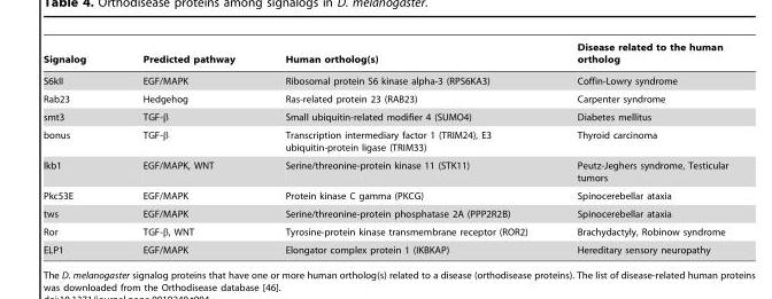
<table><thead><tr><td>Signalog</td><td>Predicted pathway</td><td>Human ortholog(s)</td><td>Disease related to the human ortholog</td></tr></thead><tbody><tr><td>S6kII</td><td>EGF/MAPK</td><td>Ribosomal protein S6 kinase alpha-3 (RPS6KA3)</td><td>Coffin-Lowry syndrome</td></tr><tr><td>Rab23</td><td>Hedgehog</td><td>Ras-related protein 23 (RAB23)</td><td>Carpenter syndrome</td></tr><tr><td>smt3</td><td>TGF-β</td><td>Small ubiquitin-related modifier 4 (SUMO4)</td><td>Diabetes mellitus</td></tr><tr><td>bonus</td><td>TGF-β</td><td>Transcription intermediary factor 1 (TRIM24), E3 ubiquitin-protein ligase (TRIM33)</td><td>Thyroid carcinoma</td></tr><tr><td>lkb1</td><td>EGF/MAPK, WNT</td><td>Serine/threonine-protein kinase 11 (STK11)</td><td>Peutz-Jeghers syndrome, Testicular tumors</td></tr><tr><td>Pkc53E</td><td>EGF/MAPK</td><td>Protein kinase C gamma (PKCG)</td><td>Spinocerebellar ataxia</td></tr><tr><td>tws</td><td>EGF/MAPK</td><td>Serine/threonine-protein phosphatase 2A (PPP2R2B)</td><td>Spinocerebellar ataxia</td></tr><tr><td>Ror</td><td>TGF-β, WNT</td><td>Tyrosine-protein kinase transmembrane receptor (ROR2)</td><td>Brachydactyly, Robinow syndrome</td></tr><tr><td>ELP1</td><td>EGF/MAPK</td><td>Elongator complex protein 1 (IKBKAP)</td><td>Hereditary sensory neuropathy</td></tr></tbody></table>